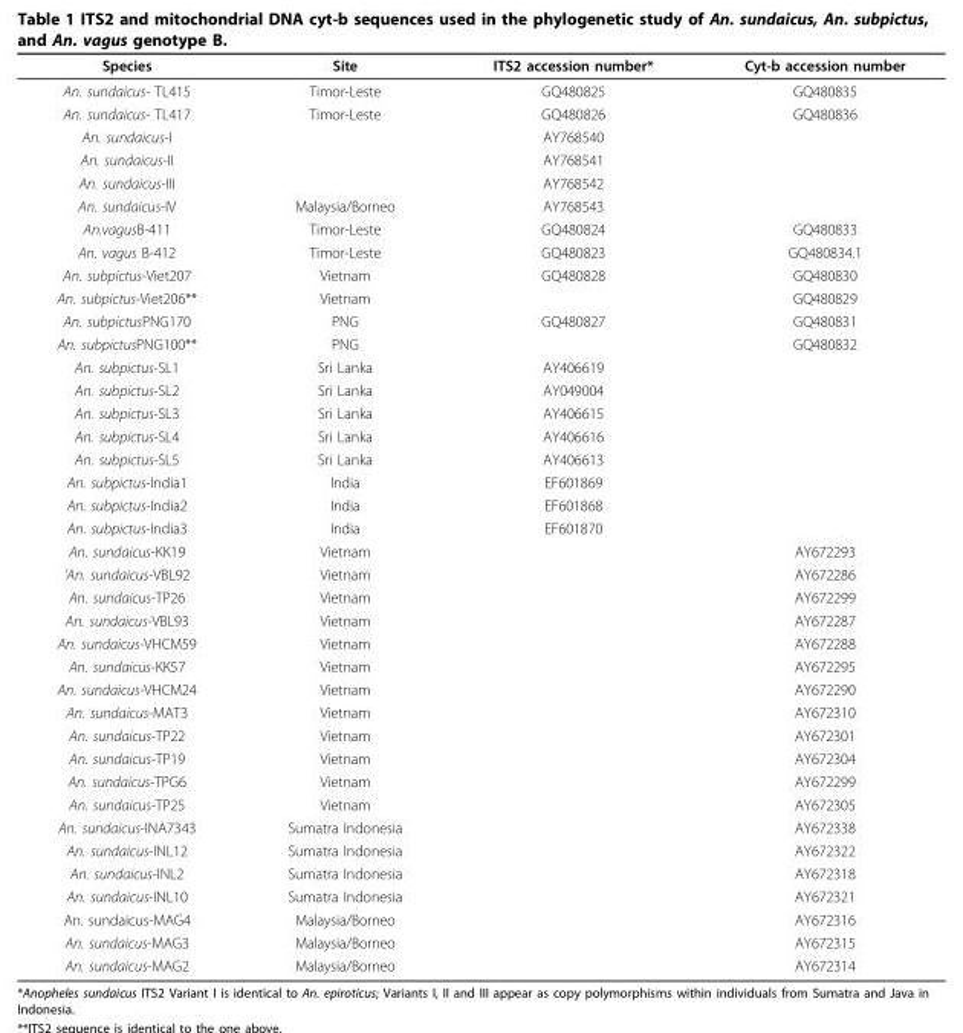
<table><thead><tr><td>Species</td><td>Site</td><td>ITS2 accession number*</td><td>Cyt-b accession number</td></tr></thead><tbody><tr><td>An. sundaicus- TL415</td><td>Timor-Leste</td><td>GQ480825</td><td>GQ480835</td></tr><tr><td>An. sundaicus- TL417</td><td>Timor-Leste</td><td>GQ480826</td><td>GQ480836</td></tr><tr><td>An. sundaicus-I</td><td></td><td>AY768540</td><td></td></tr><tr><td>An. sundaicus-II</td><td></td><td>AY768541</td><td></td></tr><tr><td>An. sundaicus-III</td><td></td><td>AY768542</td><td></td></tr><tr><td>An. sundaicus-IV</td><td>Malaysia/Borneo</td><td>AY768543</td><td></td></tr><tr><td>An.vagusB-411</td><td>Timor-Leste</td><td>GQ480824</td><td>GQ480833</td></tr><tr><td>An. vagus B-412</td><td>Timor-Leste</td><td>GQ480823</td><td>GQ480834.1</td></tr><tr><td>An. subpictus-Viet207</td><td>Vietnam</td><td>GQ480828</td><td>GQ480830</td></tr><tr><td>An. subpictus-Viet206**</td><td>Vietnam</td><td></td><td>GQ480829</td></tr><tr><td>An. subpictusPNG170</td><td>PNG</td><td>GQ480827</td><td>GQ480831</td></tr><tr><td>An. subpictusPNG100**</td><td>PNG</td><td></td><td>GQ480832</td></tr><tr><td>An. subpictus-SL1</td><td>Sri Lanka</td><td>AY406619</td><td></td></tr><tr><td>An. subpictus-SL2</td><td>Sri Lanka</td><td>AY049004</td><td></td></tr><tr><td>An. subpictus-SL3</td><td>Sri Lanka</td><td>AY406615</td><td></td></tr><tr><td>An. subpictus-SL4</td><td>Sri Lanka</td><td>AY406616</td><td></td></tr><tr><td>An. subpictus-SL5</td><td>Sri Lanka</td><td>AY406613</td><td></td></tr><tr><td>An. subpictus-India1</td><td>India</td><td>EF601869</td><td></td></tr><tr><td>An. subpictus-India2</td><td>India</td><td>EF601868</td><td></td></tr><tr><td>An. subpictus-India3</td><td>India</td><td>EF601870</td><td></td></tr><tr><td>An. sundaicus-KK19</td><td>Vietnam</td><td></td><td>AY672293</td></tr><tr><td>’An. sundaicus-VBL92</td><td>Vietnam</td><td></td><td>AY672286</td></tr><tr><td>An. sundaicus-TP26</td><td>Vietnam</td><td></td><td>AY672299</td></tr><tr><td>An. sundaicus-VBL93</td><td>Vietnam</td><td></td><td>AY672287</td></tr><tr><td>An. sundaicus-VHCM59</td><td>Vietnam</td><td></td><td>AY672288</td></tr><tr><td>An. sundaicus-KK57</td><td>Vietnam</td><td></td><td>AY672295</td></tr><tr><td>An. sundaicus-VHCM24</td><td>Vietnam</td><td></td><td>AY672290</td></tr><tr><td>An. sundaicus-MAT3</td><td>Vietnam</td><td></td><td>AY672310</td></tr><tr><td>An. sundaicus-TP22</td><td>Vietnam</td><td></td><td>AY672301</td></tr><tr><td>An. sundaicus-TP19</td><td>Vietnam</td><td></td><td>AY672304</td></tr><tr><td>An. sundaicus-TPG6</td><td>Vietnam</td><td></td><td>AY672299</td></tr><tr><td>An. sundaicus-TP25</td><td>Vietnam</td><td></td><td>AY672305</td></tr><tr><td>An. sundaicus-INA7343</td><td>Sumatra Indonesia</td><td></td><td>AY672338</td></tr><tr><td>An. sundaicus-INL12</td><td>Sumatra Indonesia</td><td></td><td>AY672322</td></tr><tr><td>An. sundaicus-INL2</td><td>Sumatra Indonesia</td><td></td><td>AY672318</td></tr><tr><td>An. sundaicus-INL10</td><td>Sumatra Indonesia</td><td></td><td>AY672321</td></tr><tr><td>An. sundaicus-MAG4</td><td>Malaysia/Borneo</td><td></td><td>AY672316</td></tr><tr><td>An. sundaicus-MAG3</td><td>Malaysia/Borneo</td><td></td><td>AY672315</td></tr><tr><td>An. sundaicus-MAG2</td><td>Malaysia/Borneo</td><td></td><td>AY672314</td></tr></tbody></table>